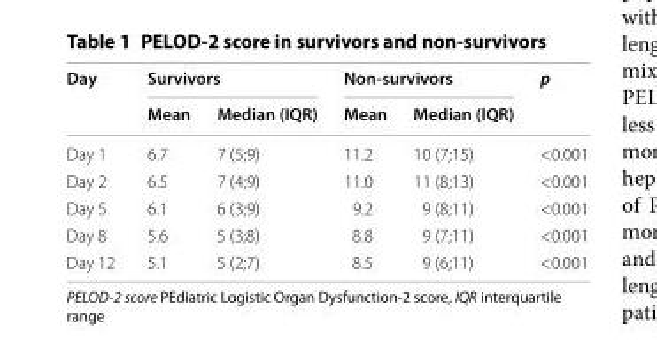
<table><thead><tr><td rowspan="2">Day</td><td colspan="2">Survivors</td><td colspan="2">Non‑survivors</td><td rowspan="2">p</td></tr><tr><td>Mean</td><td>Median (IQR)</td><td>Mean</td><td>Median (IQR)</td></tr></thead><tbody><tr><td>Day 1</td><td>6.7</td><td>7 (5;9)</td><td>11.2</td><td>10 (7;15)</td><td>&lt;0.001</td></tr><tr><td>Day 2</td><td>6.5</td><td>7 (4;9)</td><td>11.0</td><td>11 (8;13)</td><td>&lt;0.001</td></tr><tr><td>Day 5</td><td>6.1</td><td>6 (3;9)</td><td>9.2</td><td>9 (8;11)</td><td>&lt;0.001</td></tr><tr><td>Day 8</td><td>5.6</td><td>5 (3;8)</td><td>8.8</td><td>9 (7;11)</td><td>&lt;0.001</td></tr><tr><td>Day 12</td><td>5.1</td><td>5 (2;7)</td><td>8.5</td><td>9 (6;11)</td><td>&lt;0.001</td></tr></tbody></table>